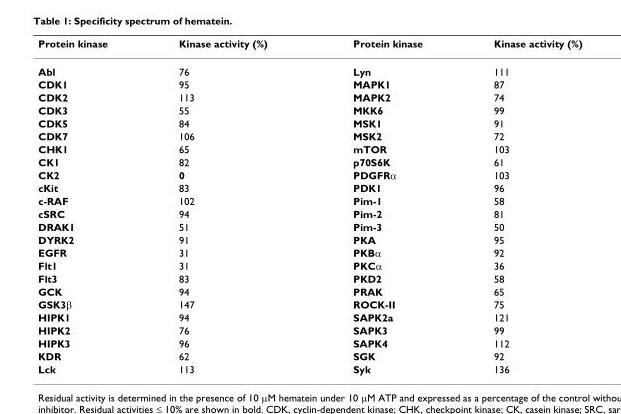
<table><thead><tr><td>Protein kinase</td><td>Kinase activity (%)</td><td>Protein kinase</td><td>Kinase activity (%)</td></tr></thead><tbody><tr><td>Abl</td><td>76</td><td>Lyn</td><td>111</td></tr><tr><td>CDK1</td><td>95</td><td>MAPK1</td><td>87</td></tr><tr><td>CDK2</td><td>113</td><td>MAPK2</td><td>74</td></tr><tr><td>CDK3</td><td>55</td><td>MKK6</td><td>99</td></tr><tr><td>CDK5</td><td>84</td><td>MSK1</td><td>91</td></tr><tr><td>CDK7</td><td>106</td><td>MSK2</td><td>72</td></tr><tr><td>CHK1</td><td>65</td><td>mTOR</td><td>103</td></tr><tr><td>CK1</td><td>82</td><td>p70S6K</td><td>61</td></tr><tr><td>CK2</td><td>0</td><td>PDGFRα</td><td>103</td></tr><tr><td>cKit</td><td>83</td><td>PDK1</td><td>96</td></tr><tr><td>c-RAF</td><td>102</td><td>Pim-1</td><td>58</td></tr><tr><td>cSRC</td><td>94</td><td>Pim-2</td><td>81</td></tr><tr><td>DRAK1</td><td>51</td><td>Pim-3</td><td>50</td></tr><tr><td>DYRK2</td><td>91</td><td>PKA</td><td>95</td></tr><tr><td>EGFR</td><td>31</td><td>PKBα</td><td>92</td></tr><tr><td>Flt1</td><td>31</td><td>PKCα</td><td>36</td></tr><tr><td>Flt3</td><td>83</td><td>PKD2</td><td>58</td></tr><tr><td>GCK</td><td>94</td><td>PRAK</td><td>65</td></tr><tr><td>GSK3β</td><td>147</td><td>ROCK-II</td><td>75</td></tr><tr><td>HIPK1</td><td>94</td><td>SAPK2a</td><td>121</td></tr><tr><td>HIPK2</td><td>76</td><td>SAPK3</td><td>99</td></tr><tr><td>HIPK3</td><td>96</td><td>SAPK4</td><td>112</td></tr><tr><td>KDR</td><td>62</td><td>SGK</td><td>92</td></tr><tr><td>Lck</td><td>113</td><td>Syk</td><td>136</td></tr></tbody></table>